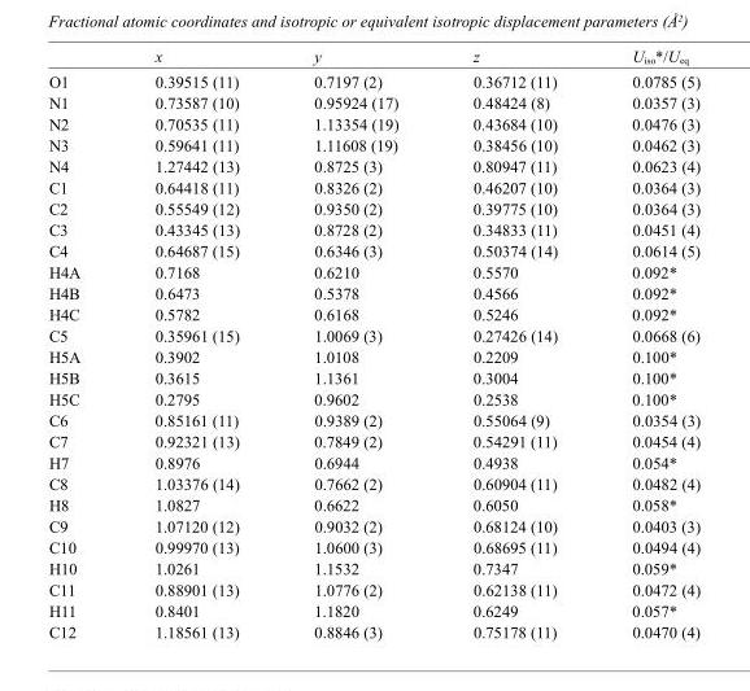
<table><thead><tr><td></td><td>x</td><td>y</td><td>z</td><td>U<sub>iso</sub>*/U<sub>eq</sub></td></tr></thead><tbody><tr><td>O1</td><td>0.39515 (11)</td><td>0.7197 (2)</td><td>0.36712 (11)</td><td>0.0785 (5)</td></tr><tr><td>N1</td><td>0.73587 (10)</td><td>0.95924 (17)</td><td>0.48424 (8)</td><td>0.0357 (3)</td></tr><tr><td>N2</td><td>0.70535 (11)</td><td>1.13354 (19)</td><td>0.43684 (10)</td><td>0.0476 (3)</td></tr><tr><td>N3</td><td>0.59641 (11)</td><td>1.11608 (19)</td><td>0.38456 (10)</td><td>0.0462 (3)</td></tr><tr><td>N4</td><td>1.27442 (13)</td><td>0.8725 (3)</td><td>0.80947 (11)</td><td>0.0623 (4)</td></tr><tr><td>C1</td><td>0.64418 (11)</td><td>0.8326 (2)</td><td>0.46207 (10)</td><td>0.0364 (3)</td></tr><tr><td>C2</td><td>0.55549 (12)</td><td>0.9350 (2)</td><td>0.39775 (10)</td><td>0.0364 (3)</td></tr><tr><td>C3</td><td>0.43345 (13)</td><td>0.8728 (2)</td><td>0.34833 (11)</td><td>0.0451 (4)</td></tr><tr><td>C4</td><td>0.64687 (15)</td><td>0.6346 (3)</td><td>0.50374 (14)</td><td>0.0614 (5)</td></tr><tr><td>H4A</td><td>0.7168</td><td>0.6210</td><td>0.5570</td><td>0.092*</td></tr><tr><td>H4B</td><td>0.6473</td><td>0.5378</td><td>0.4566</td><td>0.092*</td></tr><tr><td>H4C</td><td>0.5782</td><td>0.6168</td><td>0.5246</td><td>0.092*</td></tr><tr><td>C5</td><td>0.35961 (15)</td><td>1.0069 (3)</td><td>0.27426 (14)</td><td>0.0668 (6)</td></tr><tr><td>H5A</td><td>0.3902</td><td>1.0108</td><td>0.2209</td><td>0.100*</td></tr><tr><td>H5B</td><td>0.3615</td><td>1.1361</td><td>0.3004</td><td>0.100*</td></tr><tr><td>H5C</td><td>0.2795</td><td>0.9602</td><td>0.2538</td><td>0.100*</td></tr><tr><td>C6</td><td>0.85161 (11)</td><td>0.9389 (2)</td><td>0.55064 (9)</td><td>0.0354 (3)</td></tr><tr><td>C7</td><td>0.92321 (13)</td><td>0.7849 (2)</td><td>0.54291 (11)</td><td>0.0454 (4)</td></tr><tr><td>H7</td><td>0.8976</td><td>0.6944</td><td>0.4938</td><td>0.054*</td></tr><tr><td>C8</td><td>1.03376 (14)</td><td>0.7662 (2)</td><td>0.60904 (11)</td><td>0.0482 (4)</td></tr><tr><td>H8</td><td>1.0827</td><td>0.6622</td><td>0.6050</td><td>0.058*</td></tr><tr><td>C9</td><td>1.07120 (12)</td><td>0.9032 (2)</td><td>0.68124 (10)</td><td>0.0403 (3)</td></tr><tr><td>C10</td><td>0.99970 (13)</td><td>1.0600 (3)</td><td>0.68695 (11)</td><td>0.0494 (4)</td></tr><tr><td>H10</td><td>1.0261</td><td>1.1532</td><td>0.7347</td><td>0.059*</td></tr><tr><td>C11</td><td>0.88901 (13)</td><td>1.0776 (2)</td><td>0.62138 (11)</td><td>0.0472 (4)</td></tr><tr><td>H11</td><td>0.8401</td><td>1.1820</td><td>0.6249</td><td>0.057*</td></tr><tr><td>C12</td><td>1.18561 (13)</td><td>0.8846 (3)</td><td>0.75178 (11)</td><td>0.0470 (4)</td></tr></tbody></table>